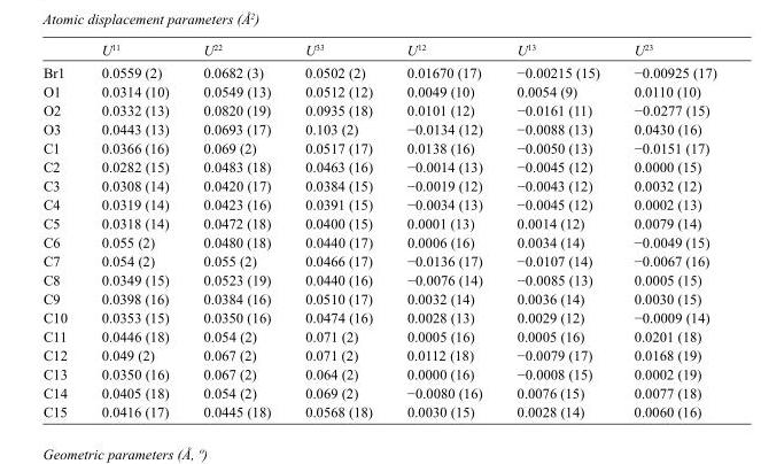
<table><thead><tr><td></td><td>U<sup>11</sup></td><td>U<sup>22</sup></td><td>U<sup>33</sup></td><td>U<sup>12</sup></td><td>U<sup>13</sup></td><td>U<sup>23</sup></td></tr></thead><tbody><tr><td>Br1</td><td>0.0559 (2)</td><td>0.0682 (3)</td><td>0.0502 (2)</td><td>0.01670 (17)</td><td>−0.00215 (15)</td><td>−0.00925 (17)</td></tr><tr><td>O1</td><td>0.0314 (10)</td><td>0.0549 (13)</td><td>0.0512 (12)</td><td>0.0049 (10)</td><td>0.0054 (9)</td><td>0.0110 (10)</td></tr><tr><td>O2</td><td>0.0332 (13)</td><td>0.0820 (19)</td><td>0.0935 (18)</td><td>0.0101 (12)</td><td>−0.0161 (11)</td><td>−0.0277 (15)</td></tr><tr><td>O3</td><td>0.0443 (13)</td><td>0.0693 (17)</td><td>0.103 (2)</td><td>−0.0134 (12)</td><td>−0.0088 (13)</td><td>0.0430 (16)</td></tr><tr><td>C1</td><td>0.0366 (16)</td><td>0.069 (2)</td><td>0.0517 (17)</td><td>0.0138 (16)</td><td>−0.0050 (13)</td><td>−0.0151 (17)</td></tr><tr><td>C2</td><td>0.0282 (15)</td><td>0.0483 (18)</td><td>0.0463 (16)</td><td>−0.0014 (13)</td><td>−0.0045 (12)</td><td>0.0000 (15)</td></tr><tr><td>C3</td><td>0.0308 (14)</td><td>0.0420 (17)</td><td>0.0384 (15)</td><td>−0.0019 (12)</td><td>−0.0043 (12)</td><td>0.0032 (12)</td></tr><tr><td>C4</td><td>0.0319 (14)</td><td>0.0423 (16)</td><td>0.0391 (15)</td><td>−0.0034 (13)</td><td>−0.0045 (12)</td><td>0.0002 (13)</td></tr><tr><td>C5</td><td>0.0318 (14)</td><td>0.0472 (18)</td><td>0.0400 (15)</td><td>0.0001 (13)</td><td>0.0014 (12)</td><td>0.0079 (14)</td></tr><tr><td>C6</td><td>0.055 (2)</td><td>0.0480 (18)</td><td>0.0440 (17)</td><td>0.0006 (16)</td><td>0.0034 (14)</td><td>−0.0049 (15)</td></tr><tr><td>C7</td><td>0.054 (2)</td><td>0.055 (2)</td><td>0.0466 (17)</td><td>−0.0136 (17)</td><td>−0.0107 (14)</td><td>−0.0067 (16)</td></tr><tr><td>C8</td><td>0.0349 (15)</td><td>0.0523 (19)</td><td>0.0440 (16)</td><td>−0.0076 (14)</td><td>−0.0085 (13)</td><td>0.0005 (15)</td></tr><tr><td>C9</td><td>0.0398 (16)</td><td>0.0384 (16)</td><td>0.0510 (17)</td><td>0.0032 (14)</td><td>0.0036 (14)</td><td>0.0030 (15)</td></tr><tr><td>C10</td><td>0.0353 (15)</td><td>0.0350 (16)</td><td>0.0474 (16)</td><td>0.0028 (13)</td><td>0.0029 (12)</td><td>−0.0009 (14)</td></tr><tr><td>C11</td><td>0.0446 (18)</td><td>0.054 (2)</td><td>0.071 (2)</td><td>0.0005 (16)</td><td>0.0005 (16)</td><td>0.0201 (18)</td></tr><tr><td>C12</td><td>0.049 (2)</td><td>0.067 (2)</td><td>0.071 (2)</td><td>0.0112 (18)</td><td>−0.0079 (17)</td><td>0.0168 (19)</td></tr><tr><td>C13</td><td>0.0350 (16)</td><td>0.067 (2)</td><td>0.064 (2)</td><td>0.0000 (16)</td><td>−0.0008 (15)</td><td>0.0002 (19)</td></tr><tr><td>C14</td><td>0.0405 (18)</td><td>0.054 (2)</td><td>0.069 (2)</td><td>−0.0080 (16)</td><td>0.0076 (15)</td><td>0.0077 (18)</td></tr><tr><td>C15</td><td>0.0416 (17)</td><td>0.0445 (18)</td><td>0.0568 (18)</td><td>0.0030 (15)</td><td>0.0028 (14)</td><td>0.0060 (16)</td></tr></tbody></table>